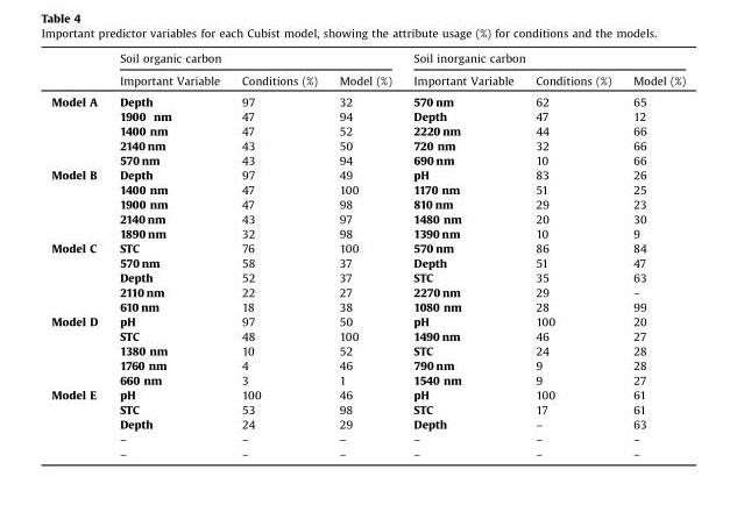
<table><thead><tr><td rowspan="2"></td><td colspan="3">Soil organic carbon</td><td colspan="3">Soil inorganic carbon</td></tr><tr><td>Important Variable</td><td>Conditions (%)</td><td>Model (%)</td><td>Important Variable</td><td>Conditions (%)</td><td>Model (%)</td></tr></thead><tbody><tr><td rowspan="5">Model A</td><td>Depth</td><td>97</td><td>32</td><td>570 nm</td><td>62</td><td>65</td></tr><tr><td>1900 nm</td><td>47</td><td>94</td><td>Depth</td><td>47</td><td>12</td></tr><tr><td>1400 nm</td><td>47</td><td>52</td><td>2220 nm</td><td>44</td><td>66</td></tr><tr><td>2140 nm</td><td>43</td><td>50</td><td>720 nm</td><td>32</td><td>66</td></tr><tr><td>570 nm</td><td>43</td><td>94</td><td>690 nm</td><td>10</td><td>66</td></tr><tr><td rowspan="5">Model B</td><td>Depth</td><td>97</td><td>49</td><td>pH</td><td>83</td><td>26</td></tr><tr><td>1400 nm</td><td>47</td><td>100</td><td>1170 nm</td><td>51</td><td>25</td></tr><tr><td>1900 nm</td><td>47</td><td>98</td><td>810 nm</td><td>29</td><td>23</td></tr><tr><td>2140 nm</td><td>43</td><td>97</td><td>1480 nm</td><td>20</td><td>30</td></tr><tr><td>1890 nm</td><td>32</td><td>98</td><td>1390 nm</td><td>10</td><td>9</td></tr><tr><td rowspan="5">Model C</td><td>STC</td><td>76</td><td>100</td><td>570 nm</td><td>86</td><td>84</td></tr><tr><td>570 nm</td><td>58</td><td>37</td><td>Depth</td><td>51</td><td>47</td></tr><tr><td>Depth</td><td>52</td><td>37</td><td>STC</td><td>35</td><td>63</td></tr><tr><td>2110 nm</td><td>22</td><td>27</td><td>2270 nm</td><td>29</td><td>–</td></tr><tr><td>610 nm</td><td>18</td><td>38</td><td>1080 nm</td><td>28</td><td>99</td></tr><tr><td rowspan="5">Model D</td><td>pH</td><td>97</td><td>50</td><td>pH</td><td>100</td><td>20</td></tr><tr><td>STC</td><td>48</td><td>100</td><td>1490 nm</td><td>46</td><td>27</td></tr><tr><td>1380 nm</td><td>10</td><td>52</td><td>STC</td><td>24</td><td>28</td></tr><tr><td>1760 nm</td><td>4</td><td>46</td><td>790 nm</td><td>9</td><td>28</td></tr><tr><td>660 nm</td><td>3</td><td>1</td><td>1540 nm</td><td>9</td><td>27</td></tr><tr><td rowspan="5">Model E</td><td>pH</td><td>100</td><td>46</td><td>pH</td><td>100</td><td>61</td></tr><tr><td>STC</td><td>53</td><td>98</td><td>STC</td><td>17</td><td>61</td></tr><tr><td>Depth</td><td>24</td><td>29</td><td>Depth</td><td>–</td><td>63</td></tr><tr><td>–</td><td>–</td><td>–</td><td>–</td><td>–</td><td>–</td></tr><tr><td>–</td><td>–</td><td>–</td><td>–</td><td>–</td><td>–</td></tr></tbody></table>